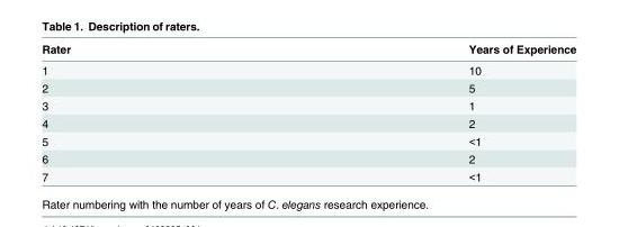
<table><thead><tr><td>Rater</td><td>Years of Experience</td></tr></thead><tbody><tr><td>1</td><td>10</td></tr><tr><td>2</td><td>5</td></tr><tr><td>3</td><td>1</td></tr><tr><td>4</td><td>2</td></tr><tr><td>5</td><td>&lt;1</td></tr><tr><td>6</td><td>2</td></tr><tr><td>7</td><td>&lt;1</td></tr></tbody></table>